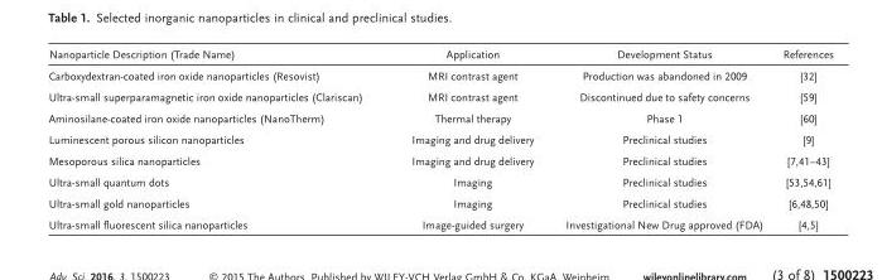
<table><thead><tr><td>Nanoparticle Description (Trade Name)</td><td>Application</td><td>Development Status</td><td>References</td></tr></thead><tbody><tr><td>Carboxydextran-coated iron oxide nanoparticles (Resovist)</td><td>MRI contrast agent</td><td>Production was abandoned in 2009</td><td>[32]</td></tr><tr><td>Ultra-small superparamagnetic iron oxide nanoparticles (Clariscan)</td><td>MRI contrast agent</td><td>Discontinued due to safety concerns</td><td>[59]</td></tr><tr><td>Aminosilane-coated iron oxide nanoparticles (NanoTherm)</td><td>Thermal therapy</td><td>Phase 1</td><td>[60]</td></tr><tr><td>Luminescent porous silicon nanoparticles</td><td>Imaging and drug delivery</td><td>Preclinical studies</td><td>[9]</td></tr><tr><td>Mesoporous silica nanoparticles</td><td>Imaging and drug delivery</td><td>Preclinical studies</td><td>[7,41–43]</td></tr><tr><td>Ultra-small quantum dots</td><td>Imaging</td><td>Preclinical studies</td><td>[53,54,61]</td></tr><tr><td>Ultra-small gold nanoparticles</td><td>Imaging</td><td>Preclinical studies</td><td>[6,48,50]</td></tr><tr><td>Ultra-small fl uorescent silica nanoparticles</td><td>Image-guided surgery</td><td>Investigational New Drug approved (FDA)</td><td>[4,5]</td></tr></tbody></table>